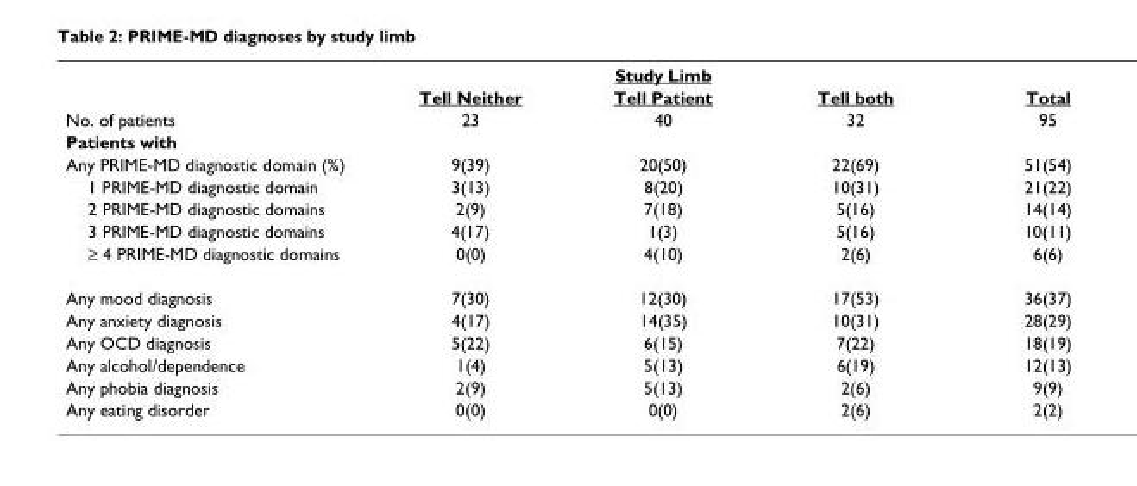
<table><thead><tr><td rowspan="2"></td><td colspan="3">Study Limb</td><td rowspan="2">Total</td></tr><tr><td>Tell Neither</td><td>Tell Patient</td><td>Tell both</td></tr></thead><tbody><tr><td>No. of patients</td><td>23</td><td>40</td><td>32</td><td>95</td></tr><tr><td colspan="5">Patients with</td></tr><tr><td>Any PRIME-MD diagnostic domain (%)</td><td>9(39)</td><td>20(50)</td><td>22(69)</td><td>51(54)</td></tr><tr><td>1 PRIME-MD diagnostic domain</td><td>3(13)</td><td>8(20)</td><td>10(31)</td><td>21(22)</td></tr><tr><td>2 PRIME-MD diagnostic domains</td><td>2(9)</td><td>7(18)</td><td>5(16)</td><td>14(14)</td></tr><tr><td>3 PRIME-MD diagnostic domains</td><td>4(17)</td><td>1(3)</td><td>5(16)</td><td>10(11)</td></tr><tr><td>≥ 4 PRIME-MD diagnostic domains</td><td>0(0)</td><td>4(10)</td><td>2(6)</td><td>6(6)</td></tr><tr><td>Any mood diagnosis</td><td>7(30)</td><td>12(30)</td><td>17(53)</td><td>36(37)</td></tr><tr><td>Any anxiety diagnosis</td><td>4(17)</td><td>14(35)</td><td>10(31)</td><td>28(29)</td></tr><tr><td>Any OCD diagnosis</td><td>5(22)</td><td>6(15)</td><td>7(22)</td><td>18(19)</td></tr><tr><td>Any alcohol/dependence</td><td>1(4)</td><td>5(13)</td><td>6(19)</td><td>12(13)</td></tr><tr><td>Any phobia diagnosis</td><td>2(9)</td><td>5(13)</td><td>2(6)</td><td>9(9)</td></tr><tr><td>Any eating disorder</td><td>0(0)</td><td>0(0)</td><td>2(6)</td><td>2(2)</td></tr></tbody></table>